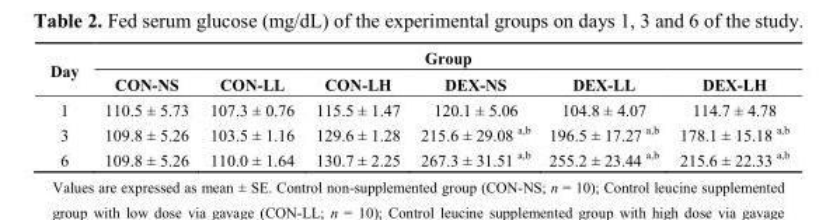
<table><thead><tr><td rowspan="2">Day</td><td colspan="6">Group</td></tr><tr><td>CON-NS</td><td>CON-LL</td><td>CON-LH</td><td>DEX-NS</td><td>DEX-LL</td><td>DEX-LH</td></tr></thead><tbody><tr><td>1</td><td>110.5 ± 5.73</td><td>107.3 ± 0.76</td><td>115.5 ± 1.47</td><td>120.1 ± 5.06</td><td>104.8 ± 4.07</td><td>114.7 ± 4.78</td></tr><tr><td>3</td><td>109.8 ± 5.26</td><td>103.5 ± 1.16</td><td>129.6 ± 1.28</td><td>215.6 ± 29.08 <sup>a,b</sup></td><td>196.5 ± 17.27 <sup>a,b</sup></td><td>178.1 ± 15.18 <sup>a,b</sup></td></tr><tr><td>6</td><td>109.8 ± 5.26</td><td>110.0 ± 1.64</td><td>130.7 ± 2.25</td><td>267.3 ± 31.51 <sup>a,b</sup></td><td>255.2 ± 23.44 <sup>a,b</sup></td><td>215.6 ± 22.33 <sup>a,b</sup></td></tr></tbody></table>